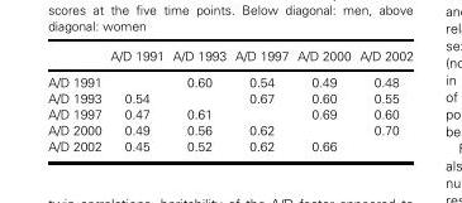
<table><thead><tr><td></td><td>A/D 1991</td><td>A/D 1993</td><td>A/D 1997</td><td>A/D 2000</td><td>A/D 2002</td></tr></thead><tbody><tr><td>A/D 1991</td><td></td><td>0.60</td><td>0.54</td><td>0.49</td><td>0.48</td></tr><tr><td>A/D 1993</td><td>0.54</td><td></td><td>0.67</td><td>0.60</td><td>0.55</td></tr><tr><td>A/D 1997</td><td>0.47</td><td>0.61</td><td></td><td>0.69</td><td>0.60</td></tr><tr><td>A/D 2000</td><td>0.49</td><td>0.56</td><td>0.62</td><td></td><td>0.70</td></tr><tr><td>A/D 2002</td><td>0.45</td><td>0.52</td><td>0.62</td><td>0.66</td><td></td></tr></tbody></table>